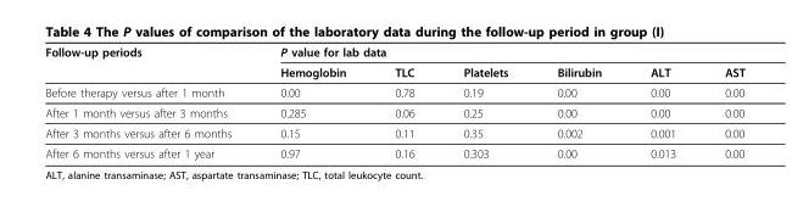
<table><thead><tr><td rowspan="2">Follow-up periods</td><td colspan="6">P value for lab data</td></tr><tr><td>Hemoglobin</td><td>TLC</td><td>Platelets</td><td>Bilirubin</td><td>ALT</td><td>AST</td></tr></thead><tbody><tr><td>Before therapy versus after 1 month</td><td>0.00</td><td>0.78</td><td>0.19</td><td>0.00</td><td>0.00</td><td>0.00</td></tr><tr><td>After 1 month versus after 3 months</td><td>0.285</td><td>0.06</td><td>0.25</td><td>0.00</td><td>0.00</td><td>0.00</td></tr><tr><td>After 3 months versus after 6 months</td><td>0.15</td><td>0.11</td><td>0.35</td><td>0.002</td><td>0.001</td><td>0.00</td></tr><tr><td>After 6 months versus after 1 year</td><td>0.97</td><td>0.16</td><td>0.303</td><td>0.00</td><td>0.013</td><td>0.00</td></tr></tbody></table>